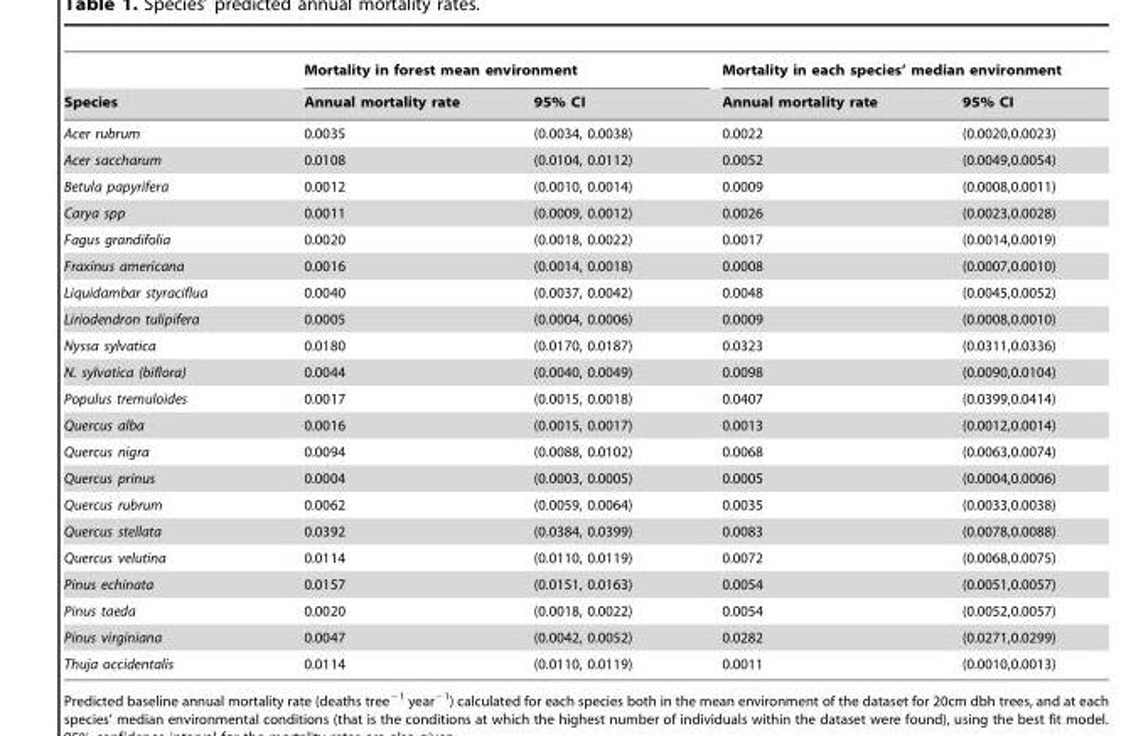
<table><thead><tr><td rowspan="2">Species</td><td colspan="2">Mortality in forest mean environment</td><td colspan="2">Mortality in each species’ median environment</td></tr><tr><td>Annual mortality rate</td><td>95% CI</td><td>Annual mortality rate</td><td>95% CI</td></tr></thead><tbody><tr><td>Acer rubrum</td><td>0.0035</td><td>(0.0034, 0.0038)</td><td>0.0022</td><td>(0.0020,0.0023)</td></tr><tr><td>Acer saccharum</td><td>0.0108</td><td>(0.0104, 0.0112)</td><td>0.0052</td><td>(0.0049,0.0054)</td></tr><tr><td>Betula papyrifera</td><td>0.0012</td><td>(0.0010, 0.0014)</td><td>0.0009</td><td>(0.0008,0.0011)</td></tr><tr><td>Carya spp</td><td>0.0011</td><td>(0.0009, 0.0012)</td><td>0.0026</td><td>(0.0023,0.0028)</td></tr><tr><td>Fagus grandifolia</td><td>0.0020</td><td>(0.0018, 0.0022)</td><td>0.0017</td><td>(0.0014,0.0019)</td></tr><tr><td>Fraxinus americana</td><td>0.0016</td><td>(0.0014, 0.0018)</td><td>0.0008</td><td>(0.0007,0.0010)</td></tr><tr><td>Liquidambar styraciflua</td><td>0.0040</td><td>(0.0037, 0.0042)</td><td>0.0048</td><td>(0.0045,0.0052)</td></tr><tr><td>Liriodendron tulipifera</td><td>0.0005</td><td>(0.0004, 0.0006)</td><td>0.0009</td><td>(0.0008,0.0010)</td></tr><tr><td>Nyssa sylvatica</td><td>0.0180</td><td>(0.0170, 0.0187)</td><td>0.0323</td><td>(0.0311,0.0336)</td></tr><tr><td>N. sylvatica (biflora)</td><td>0.0044</td><td>(0.0040, 0.0049)</td><td>0.0098</td><td>(0.0090,0.0104)</td></tr><tr><td>Populus tremuloides</td><td>0.0017</td><td>(0.0015, 0.0018)</td><td>0.0407</td><td>(0.0399,0.0414)</td></tr><tr><td>Quercus alba</td><td>0.0016</td><td>(0.0015, 0.0017)</td><td>0.0013</td><td>(0.0012,0.0014)</td></tr><tr><td>Quercus nigra</td><td>0.0094</td><td>(0.0088, 0.0102)</td><td>0.0068</td><td>(0.0063,0.0074)</td></tr><tr><td>Quercus prinus</td><td>0.0004</td><td>(0.0003, 0.0005)</td><td>0.0005</td><td>(0.0004,0.0006)</td></tr><tr><td>Quercus rubrum</td><td>0.0062</td><td>(0.0059, 0.0064)</td><td>0.0035</td><td>(0.0033,0.0038)</td></tr><tr><td>Quercus stellata</td><td>0.0392</td><td>(0.0384, 0.0399)</td><td>0.0083</td><td>(0.0078,0.0088)</td></tr><tr><td>Quercus velutina</td><td>0.0114</td><td>(0.0110, 0.0119)</td><td>0.0072</td><td>(0.0068,0.0075)</td></tr><tr><td>Pinus echinata</td><td>0.0157</td><td>(0.0151, 0.0163)</td><td>0.0054</td><td>(0.0051,0.0057)</td></tr><tr><td>Pinus taeda</td><td>0.0020</td><td>(0.0018, 0.0022)</td><td>0.0054</td><td>(0.0052,0.0057)</td></tr><tr><td>Pinus virginiana</td><td>0.0047</td><td>(0.0042, 0.0052)</td><td>0.0282</td><td>(0.0271,0.0299)</td></tr><tr><td>Thuja occidentalis</td><td>0.0114</td><td>(0.0110, 0.0119)</td><td>0.0011</td><td>(0.0010,0.0013)</td></tr></tbody></table>